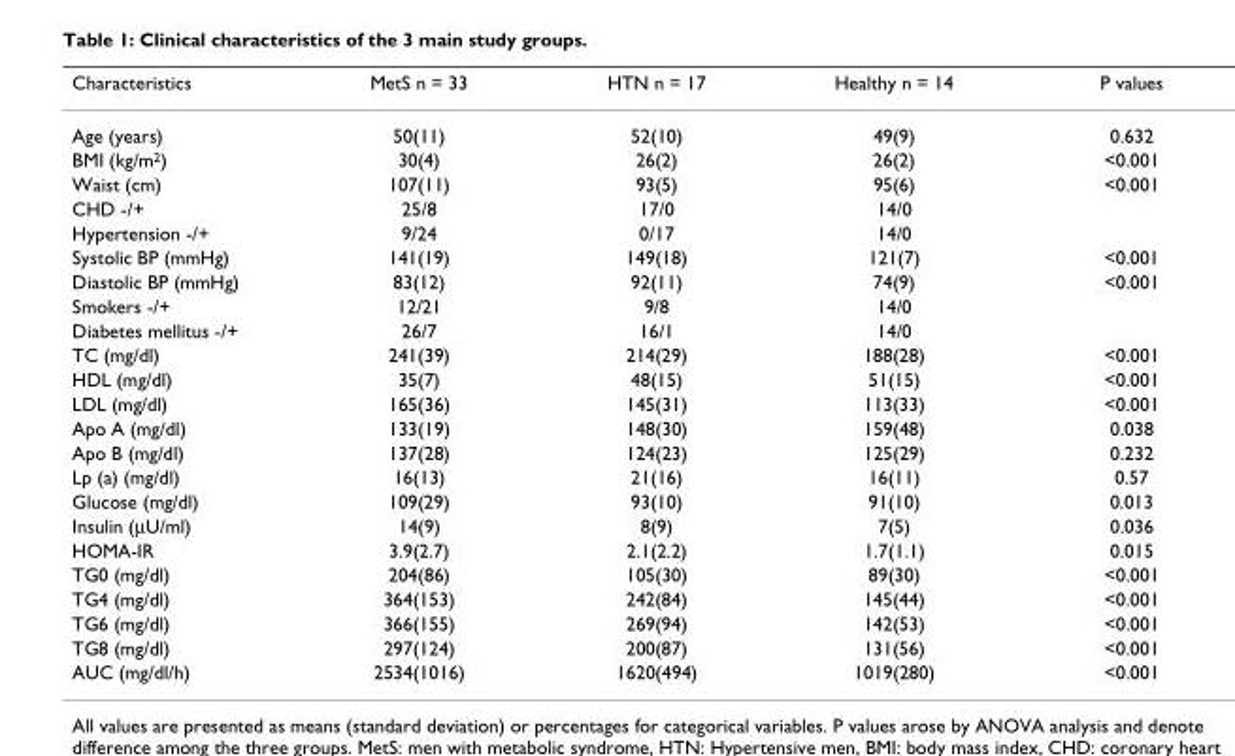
<table><thead><tr><td>Characteristics</td><td>MetS n = 33</td><td>HTN n = 17</td><td>Healthy n = 14</td><td>P values</td></tr></thead><tbody><tr><td>Age (years)</td><td>50(11)</td><td>52(10)</td><td>49(9)</td><td>0.632</td></tr><tr><td>BMI (kg/m<sup>2</sup>)</td><td>30(4)</td><td>26(2)</td><td>26(2)</td><td>&lt;0.001</td></tr><tr><td>Waist (cm)</td><td>107(11)</td><td>93(5)</td><td>95(6)</td><td>&lt;0.001</td></tr><tr><td>CHD -/+</td><td>25/8</td><td>17/0</td><td>14/0</td><td></td></tr><tr><td>Hypertension -/+</td><td>9/24</td><td>0/17</td><td>14/0</td><td></td></tr><tr><td>Systolic BP (mmHg)</td><td>141(19)</td><td>149(18)</td><td>121(7)</td><td>&lt;0.001</td></tr><tr><td>Diastolic BP (mmHg)</td><td>83(12)</td><td>92(11)</td><td>74(9)</td><td>&lt;0.001</td></tr><tr><td>Smokers -/+</td><td>12/21</td><td>9/8</td><td>14/0</td><td></td></tr><tr><td>Diabetes mellitus -/+</td><td>26/7</td><td>16/1</td><td>14/0</td><td></td></tr><tr><td>TC (mg/dl)</td><td>241(39)</td><td>214(29)</td><td>188(28)</td><td>&lt;0.001</td></tr><tr><td>HDL (mg/dl)</td><td>35(7)</td><td>48(15)</td><td>51(15)</td><td>&lt;0.001</td></tr><tr><td>LDL (mg/dl)</td><td>165(36)</td><td>145(31)</td><td>113(33)</td><td>&lt;0.001</td></tr><tr><td>Apo A (mg/dl)</td><td>133(19)</td><td>148(30)</td><td>159(48)</td><td>0.038</td></tr><tr><td>Apo B (mg/dl)</td><td>137(28)</td><td>124(23)</td><td>125(29)</td><td>0.232</td></tr><tr><td>Lp (a) (mg/dl)</td><td>16(13)</td><td>21(16)</td><td>16(11)</td><td>0.57</td></tr><tr><td>Glucose (mg/dl)</td><td>109(29)</td><td>93(10)</td><td>91(10)</td><td>0.013</td></tr><tr><td>Insulin (µU/ml)</td><td>14(9)</td><td>8(9)</td><td>7(5)</td><td>0.036</td></tr><tr><td>HOMA-IR</td><td>3.9(2.7)</td><td>2.1(2.2)</td><td>1.7(1.1)</td><td>0.015</td></tr><tr><td>TG0 (mg/dl)</td><td>204(86)</td><td>105(30)</td><td>89(30)</td><td>&lt;0.001</td></tr><tr><td>TG4 (mg/dl)</td><td>364(153)</td><td>242(84)</td><td>145(44)</td><td>&lt;0.001</td></tr><tr><td>TG6 (mg/dl)</td><td>366(155)</td><td>269(94)</td><td>142(53)</td><td>&lt;0.001</td></tr><tr><td>TG8 (mg/dl)</td><td>297(124)</td><td>200(87)</td><td>131(56)</td><td>&lt;0.001</td></tr><tr><td>AUC (mg/dl/h)</td><td>2534(1016)</td><td>1620(494)</td><td>1019(280)</td><td>&lt;0.001</td></tr></tbody></table>